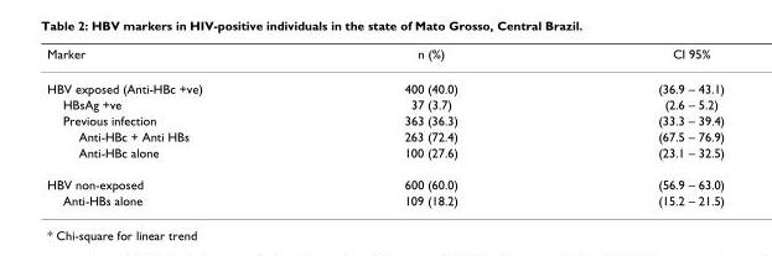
<table><thead><tr><td>Marker</td><td>n (%)</td><td>CI 95%</td></tr></thead><tbody><tr><td>HBV exposed (Anti-HBc +ve)</td><td>400 (40.0)</td><td>(36.9 – 43.1)</td></tr><tr><td>HBsAg +ve</td><td>37 (3.7)</td><td>(2.6 – 5.2)</td></tr><tr><td>Previous infection</td><td>363 (36.3)</td><td>(33.3 – 39.4)</td></tr><tr><td>Anti-HBc + Anti HBs</td><td>263 (72.4)</td><td>(67.5 – 76.9)</td></tr><tr><td>Anti-HBc alone</td><td>100 (27.6)</td><td>(23.1 – 32.5)</td></tr><tr><td>HBV non-exposed</td><td>600 (60.0)</td><td>(56.9 – 63.0)</td></tr><tr><td>Anti-HBs alone</td><td>109 (18.2)</td><td>(15.2 – 21.5)</td></tr></tbody></table>